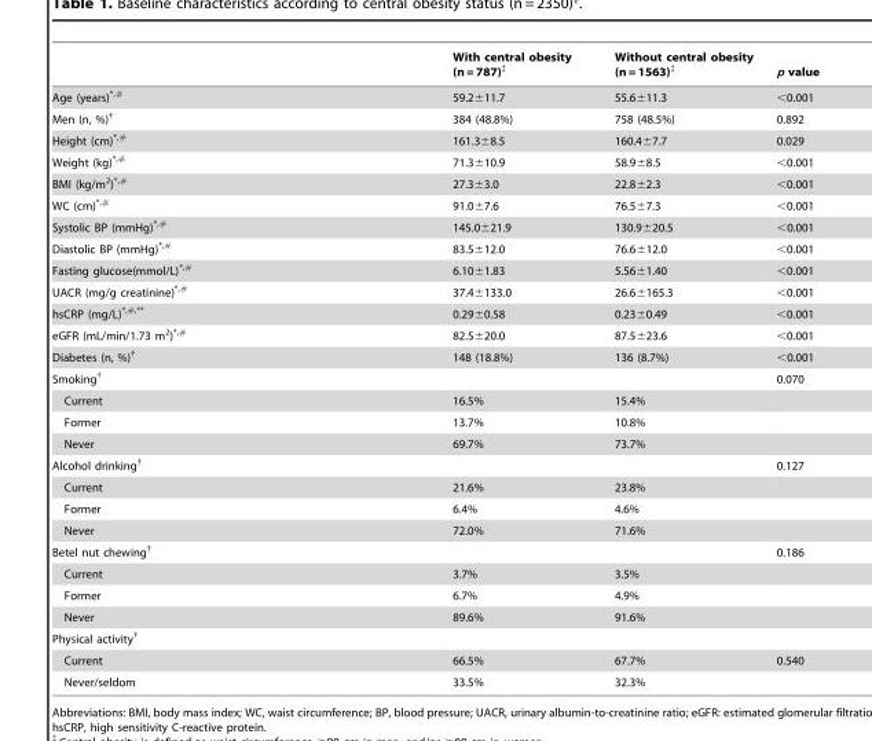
<table><thead><tr><td></td><td>With central obesity (n = 787)‡</td><td>Without central obesity (n = 1563)‡</td><td>p value</td></tr></thead><tbody><tr><td>Age (years)*<sup>,</sup>#</td><td>59.2±11.7</td><td>55.6±11.3</td><td>&lt;0.001</td></tr><tr><td>Men (n, %)†</td><td>384 (48.8%)</td><td>758 (48.5%)</td><td>0.892</td></tr><tr><td>Height (cm)*<sup>,</sup>#</td><td>161.3±8.5</td><td>160.4±7.7</td><td>0.029</td></tr><tr><td>Weight (kg)*<sup>,</sup>#</td><td>71.3±10.9</td><td>58.9±8.5</td><td>&lt;0.001</td></tr><tr><td>BMI (kg/m<sup>2</sup>)*<sup>,</sup>#</td><td>27.3±3.0</td><td>22.8±2.3</td><td>&lt;0.001</td></tr><tr><td>WC (cm)*<sup>,</sup>#</td><td>91.0±7.6</td><td>76.5±7.3</td><td>&lt;0.001</td></tr><tr><td>Systolic BP (mmHg)*<sup>,</sup>#</td><td>145.0±21.9</td><td>130.9±20.5</td><td>&lt;0.001</td></tr><tr><td>Diastolic BP (mmHg)*<sup>,</sup>#</td><td>83.5±12.0</td><td>76.6±12.0</td><td>&lt;0.001</td></tr><tr><td>Fasting glucose(mmol/L)*<sup>,</sup>#</td><td>6.10±1.83</td><td>5.56±1.40</td><td>&lt;0.001</td></tr><tr><td>UACR (mg/g creatinine)*<sup>,</sup>#</td><td>37.4±133.0</td><td>26.6±165.3</td><td>&lt;0.001</td></tr><tr><td>hsCRP (mg/L)*<sup>,</sup>#<sup>,</sup>**</td><td>0.29±0.58</td><td>0.23±0.49</td><td>&lt;0.001</td></tr><tr><td>eGFR (mL/min/1.73 m<sup>2</sup>)*<sup>,</sup>#</td><td>82.5±20.0</td><td>87.5±23.6</td><td>&lt;0.001</td></tr><tr><td>Diabetes (n, %)†</td><td>148 (18.8%)</td><td>136 (8.7%)</td><td>&lt;0.001</td></tr><tr><td>Smoking†</td><td></td><td></td><td>0.070</td></tr><tr><td>Current</td><td>16.5%</td><td>15.4%</td><td></td></tr><tr><td>Former</td><td>13.7%</td><td>10.8%</td><td></td></tr><tr><td>Never</td><td>69.7%</td><td>73.7%</td><td></td></tr><tr><td>Alcohol drinking†</td><td></td><td></td><td>0.127</td></tr><tr><td>Current</td><td>21.6%</td><td>23.8%</td><td></td></tr><tr><td>Former</td><td>6.4%</td><td>4.6%</td><td></td></tr><tr><td>Never</td><td>72.0%</td><td>71.6%</td><td></td></tr><tr><td>Betel nut chewing†</td><td></td><td></td><td>0.186</td></tr><tr><td>Current</td><td>3.7%</td><td>3.5%</td><td></td></tr><tr><td>Former</td><td>6.7%</td><td>4.9%</td><td></td></tr><tr><td>Never</td><td>89.6%</td><td>91.6%</td><td></td></tr><tr><td colspan="4">Physical activity†</td></tr><tr><td>Current</td><td>66.5%</td><td>67.7%</td><td>0.540</td></tr><tr><td>Never/seldom</td><td>33.5%</td><td>32.3%</td><td></td></tr></tbody></table>